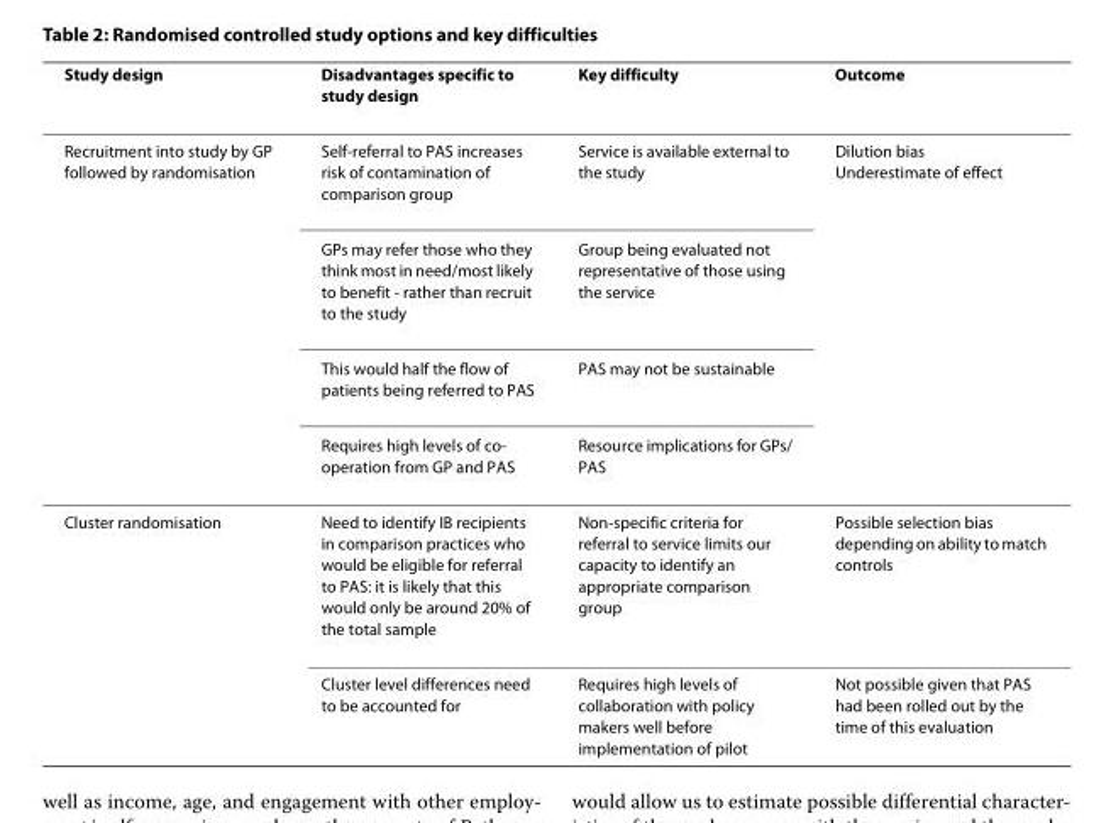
<table><thead><tr><td>Study design</td><td>Disadvantages specific to study design</td><td>Key difficulty</td><td>Outcome</td></tr></thead><tbody><tr><td rowspan="4">Recruitment into study by GP followed by randomisation</td><td>Self-referral to PAS increases risk of contamination of comparison group</td><td>Service is available external to the study</td><td>Dilution bias Underestimate of effect</td></tr><tr><td>GPs may refer those who they think most in need/most likely to benefit - rather than recruit to the study</td><td>Group being evaluated not representative of those using the service</td><td></td></tr><tr><td>This would half the flow of patients being referred to PAS</td><td>PAS may not be sustainable</td><td></td></tr><tr><td>Requires high levels of co- operation from GP and PAS</td><td>Resource implications for GPs/ PAS</td><td></td></tr><tr><td rowspan="2">Cluster randomisation</td><td>Need to identify IB recipients in comparison practices who would be eligible for referral to PAS: it is likely that this would only be around 20% of the total sample</td><td>Non-specific criteria for referral to service limits our capacity to identify an appropriate comparison group</td><td>Possible selection bias depending on ability to match controls</td></tr><tr><td>Cluster level differences need to be accounted for</td><td>Requires high levels of collaboration with policy makers well before implementation of pilot</td><td>Not possible given that PAS had been rolled out by the time of this evaluation</td></tr></tbody></table>